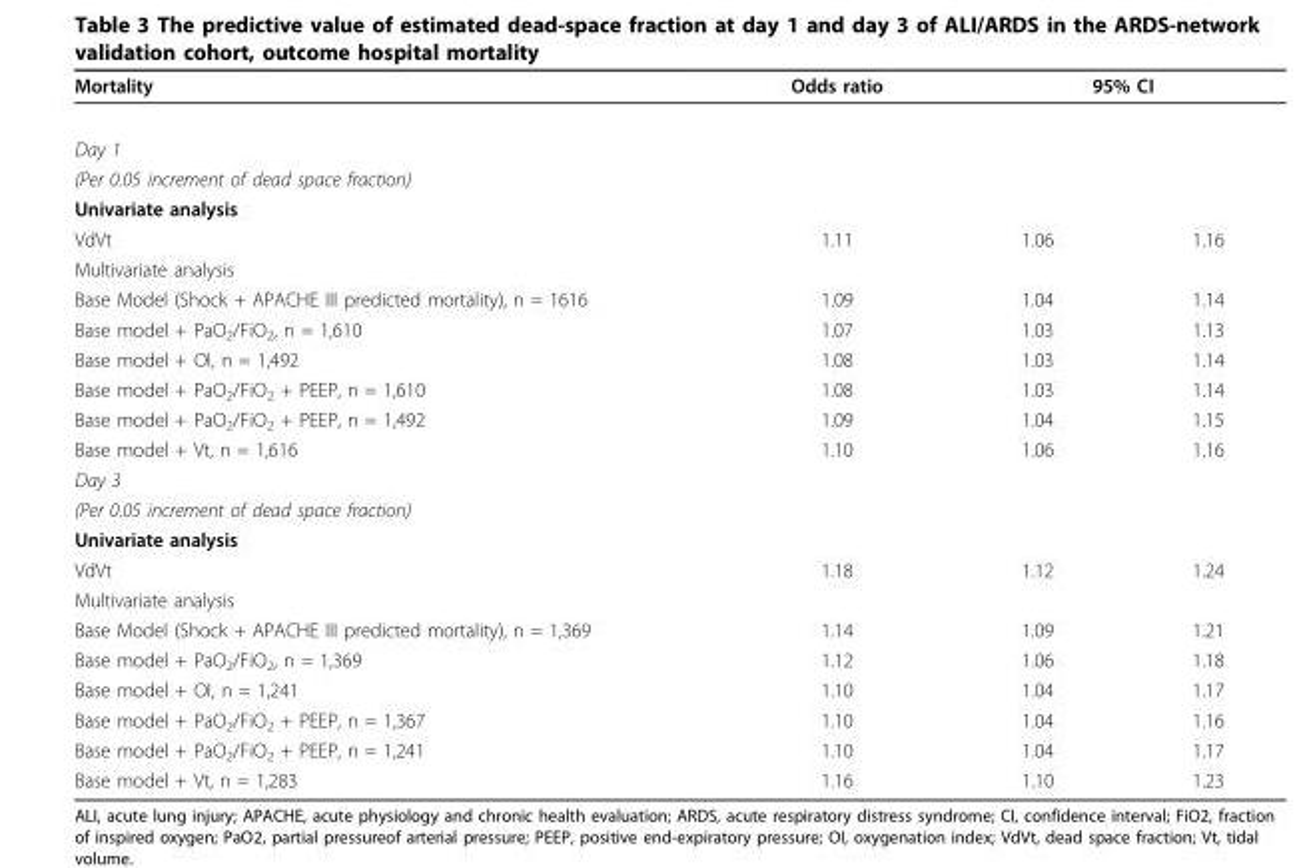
<table><thead><tr><td rowspan="2">Mortality Day 1</td><td rowspan="2">Odds ratio</td><td colspan="2">95% CI</td></tr><tr><td></td><td></td></tr></thead><tbody><tr><td colspan="4">(Per 0.05 increment of dead space fraction)</td></tr><tr><td colspan="4">Univariate analysis</td></tr><tr><td>VdVt</td><td>1.11</td><td>1.06</td><td>1.16</td></tr><tr><td colspan="4">Multivariate analysis</td></tr><tr><td>Base Model (Shock + APACHE III predicted mortality), n = 1616</td><td>1.09</td><td>1.04</td><td>1.14</td></tr><tr><td>Base model + PaO<sub>2</sub>/FiO<sub>2</sub>, n = 1,610</td><td>1.07</td><td>1.03</td><td>1.13</td></tr><tr><td>Base model + OI, n = 1,492</td><td>1.08</td><td>1.03</td><td>1.14</td></tr><tr><td>Base model + PaO<sub>2</sub>/FiO<sub>2</sub> + PEEP, n = 1,610</td><td>1.08</td><td>1.03</td><td>1.14</td></tr><tr><td>Base model + PaO<sub>2</sub>/FiO<sub>2</sub> + PEEP, n = 1,492</td><td>1.09</td><td>1.04</td><td>1.15</td></tr><tr><td>Base model + Vt, n = 1,616</td><td>1.10</td><td>1.06</td><td>1.16</td></tr><tr><td colspan="4">Day 3</td></tr><tr><td colspan="4">(Per 0.05 increment of dead space fraction)</td></tr><tr><td colspan="4">Univariate analysis</td></tr><tr><td>VdVt</td><td>1.18</td><td>1.12</td><td>1.24</td></tr><tr><td colspan="4">Multivariate analysis</td></tr><tr><td>Base Model (Shock + APACHE III predicted mortality), n = 1,369</td><td>1.14</td><td>1.09</td><td>1.21</td></tr><tr><td>Base model + PaO<sub>2</sub>/FiO<sub>2</sub>, n = 1,369</td><td>1.12</td><td>1.06</td><td>1.18</td></tr><tr><td>Base model + OI, n = 1,241</td><td>1.10</td><td>1.04</td><td>1.17</td></tr><tr><td>Base model + PaO<sub>2</sub>/FiO<sub>2</sub> + PEEP, n = 1,367</td><td>1.10</td><td>1.04</td><td>1.16</td></tr><tr><td>Base model + PaO<sub>2</sub>/FiO<sub>2</sub> + PEEP, n = 1,241</td><td>1.10</td><td>1.04</td><td>1.17</td></tr><tr><td>Base model + Vt, n = 1,283</td><td>1.16</td><td>1.10</td><td>1.23</td></tr></tbody></table>